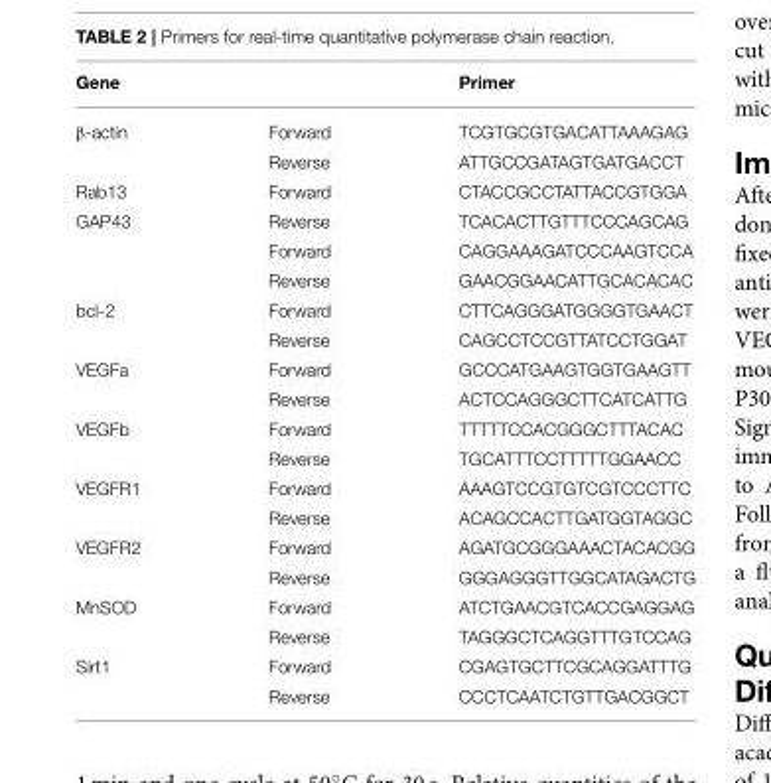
<table><thead><tr><td>Gene</td><td></td><td>Primer</td></tr></thead><tbody><tr><td rowspan="2">β-actin</td><td>Forward</td><td>TCGTGCGTGACATTAAAGAG</td></tr><tr><td>Reverse</td><td>ATTGCCGATAGTGATGACCT</td></tr><tr><td>Rab13</td><td>Forward</td><td>CTACCGCCTATTACCGTGGA</td></tr><tr><td rowspan="3">GAP43</td><td>Reverse</td><td>TCACACTTGTTTCCCAGCAG</td></tr><tr><td>Forward</td><td>CAGGAAAGATCCCAAGTCCA</td></tr><tr><td>Reverse</td><td>GAACGGAACATTGCACACAC</td></tr><tr><td rowspan="2">bcl-2</td><td>Forward</td><td>CTTCAGGGATGGGGTGAACT</td></tr><tr><td>Reverse</td><td>CAGCCTCCGTTATCCTGGAT</td></tr><tr><td rowspan="2">VEGFa</td><td>Forward</td><td>GCCCATGAAGTGGTGAAGTT</td></tr><tr><td>Reverse</td><td>ACTCCAGGGCTTCATCATTG</td></tr><tr><td rowspan="2">VEGFb</td><td>Forward</td><td>TTTTTCCACGGGCTTTACAC</td></tr><tr><td>Reverse</td><td>TGCATTTCCTTTTTGGAACC</td></tr><tr><td rowspan="2">VEGFR1</td><td>Forward</td><td>AAAGTCCGTGTCGTCCCTTC</td></tr><tr><td>Reverse</td><td>ACAGCCACTTGATGGTAGGC</td></tr><tr><td rowspan="2">VEGFR2</td><td>Forward</td><td>AGATGCGGGAAACTACACGG</td></tr><tr><td>Reverse</td><td>GGGAGGGTTGGCATAGACTG</td></tr><tr><td rowspan="2">MnSOD</td><td>Forward</td><td>ATCTGAACGTCACCGAGGAG</td></tr><tr><td>Reverse</td><td>TAGGGCTCAGGTTTGTCCAG</td></tr><tr><td rowspan="2">Sirt1</td><td>Forward</td><td>CGAGTGCTTCGCAGGATTTG</td></tr><tr><td>Reverse</td><td>CCCTCAATCTGTTGACGGCT</td></tr></tbody></table>